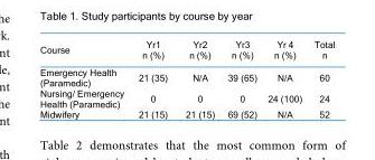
<table><thead><tr><td>Course</td><td>Yr1 n (%)</td><td>Yr2 n (%)</td><td>Yr3 n (%)</td><td>Yr 4 n (%)</td><td>Total n</td></tr></thead><tbody><tr><td>Emergency Health (Paramedic)</td><td>21 (35)</td><td>N/A</td><td>39 (65)</td><td>N/A</td><td>60</td></tr><tr><td>Nursing/ Emergency Health (Paramedic)</td><td>0</td><td>0</td><td>0</td><td>24 (100)</td><td>24</td></tr><tr><td>Midwifery</td><td>21 (15)</td><td>21 (15)</td><td>69 (52)</td><td>N/A</td><td>52</td></tr></tbody></table>